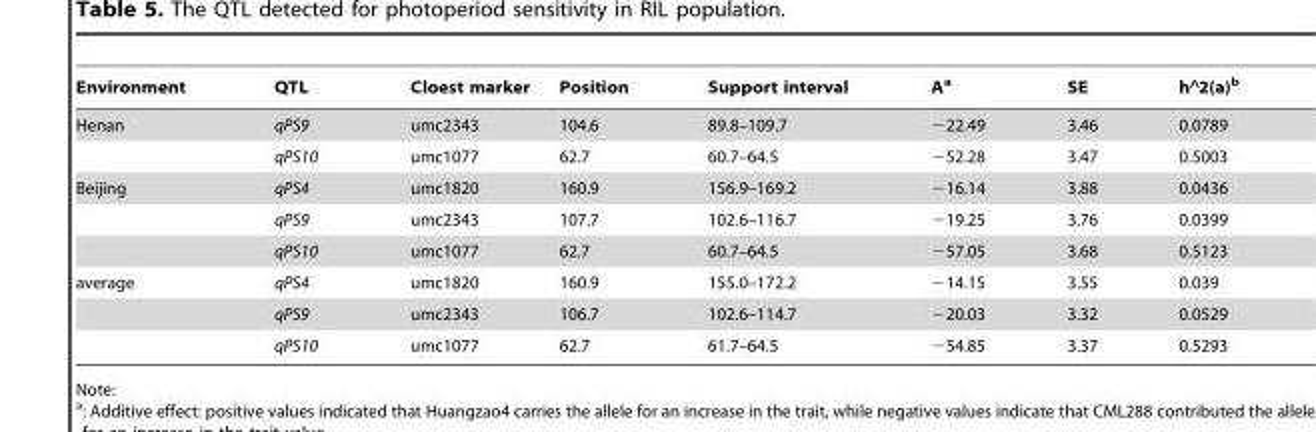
<table><thead><tr><td>Environment</td><td>QTL</td><td>Cloest marker</td><td>Position</td><td>Support interval</td><td>A<sup>a</sup></td><td>SE</td><td>h‘2(a)b</td></tr></thead><tbody><tr><td rowspan="2">Henan</td><td>qPS9</td><td>umc2343</td><td>104.6</td><td>89.8–109.7</td><td>−22.49</td><td>3.46</td><td>0.0789</td></tr><tr><td>qPS10</td><td>umc1077</td><td>62.7</td><td>60.7–64.5</td><td>−52.28</td><td>3.47</td><td>0.5003</td></tr><tr><td rowspan="3">Beijing</td><td>qPS4</td><td>umc1820</td><td>160.9</td><td>156.9–169.2</td><td>−16.14</td><td>3.88</td><td>0.0436</td></tr><tr><td>qPS9</td><td>umc2343</td><td>107.7</td><td>102.6–116.7</td><td>−19.25</td><td>3.76</td><td>0.0399</td></tr><tr><td>qPS10</td><td>umc1077</td><td>62.7</td><td>60.7–64.5</td><td>−57.05</td><td>3.68</td><td>0.5123</td></tr><tr><td rowspan="3">average</td><td>qPS4</td><td>umc1820</td><td>160.9</td><td>155.0–172.2</td><td>−14.15</td><td>3.55</td><td>0.039</td></tr><tr><td>qPS9</td><td>umc2343</td><td>106.7</td><td>102.6–114.7</td><td>−20.03</td><td>3.32</td><td>0.0529</td></tr><tr><td>qPS10</td><td>umc1077</td><td>62.7</td><td>61.7–64.5</td><td>−54.85</td><td>3.37</td><td>0.5293</td></tr></tbody></table>